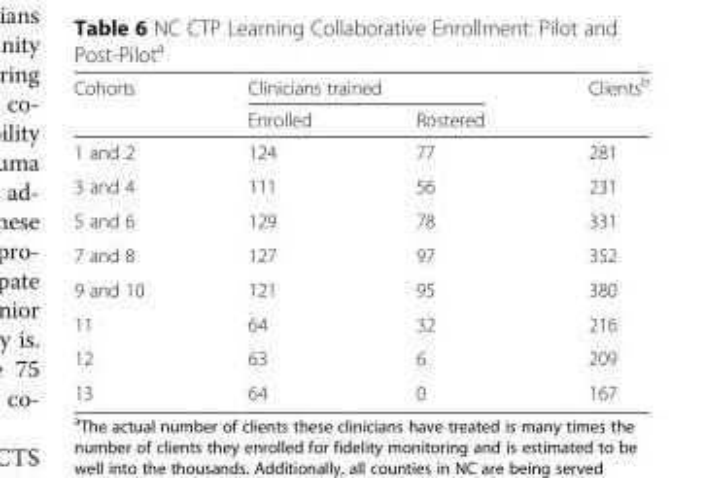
<table><thead><tr><td rowspan="2">Cohorts</td><td colspan="2">Clinicians trained</td><td rowspan="2">Clients<sup>b</sup></td></tr><tr><td>Enrolled</td><td>Rostered</td></tr></thead><tbody><tr><td>1 and 2</td><td>124</td><td>77</td><td>281</td></tr><tr><td>3 and 4</td><td>111</td><td>56</td><td>231</td></tr><tr><td>5 and 6</td><td>129</td><td>78</td><td>331</td></tr><tr><td>7 and 8</td><td>127</td><td>97</td><td>352</td></tr><tr><td>9 and 10</td><td>121</td><td>95</td><td>380</td></tr><tr><td>11</td><td>64</td><td>32</td><td>216</td></tr><tr><td>12</td><td>63</td><td>6</td><td>209</td></tr><tr><td>13</td><td>64</td><td>0</td><td>167</td></tr></tbody></table>